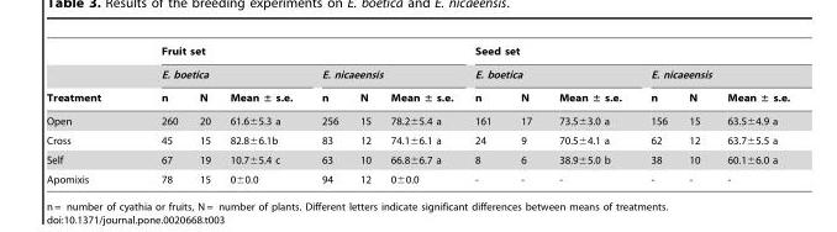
<table><thead><tr><td rowspan="3">Treatment</td><td colspan="6">Fruit set</td><td colspan="6">Seed set</td></tr><tr><td colspan="3">E. boetica</td><td colspan="3">E. nicaeensis</td><td colspan="3">E. boetica</td><td colspan="3">E. nicaeensis</td></tr><tr><td>n</td><td>N</td><td>Mean ± s.e.</td><td>n</td><td>N</td><td>Mean ± s.e.</td><td>n</td><td>N</td><td>Mean ± s.e.</td><td>n</td><td>N</td><td>Mean ± s.e.</td></tr></thead><tbody><tr><td>Open</td><td>260</td><td>20</td><td>61.6±5.3 a</td><td>256</td><td>15</td><td>78.2±5.4 a</td><td>161</td><td>17</td><td>73.5±3.0 a</td><td>156</td><td>15</td><td>63.5±4.9 a</td></tr><tr><td>Cross</td><td>45</td><td>15</td><td>82.8±6.1b</td><td>83</td><td>12</td><td>74.1±6.1 a</td><td>24</td><td>9</td><td>70.5±4.1 a</td><td>62</td><td>12</td><td>63.7±5.5 a</td></tr><tr><td>Self</td><td>67</td><td>19</td><td>10.7±5.4 c</td><td>63</td><td>10</td><td>66.8±6.7 a</td><td>8</td><td>6</td><td>38.9±5.0 b</td><td>38</td><td>10</td><td>60.1±6.0 a</td></tr><tr><td>Apomixis</td><td>78</td><td>15</td><td>0±0.0</td><td>94</td><td>12</td><td>0±0.0</td><td>-</td><td>-</td><td>-</td><td>-</td><td>-</td><td>-</td></tr></tbody></table>